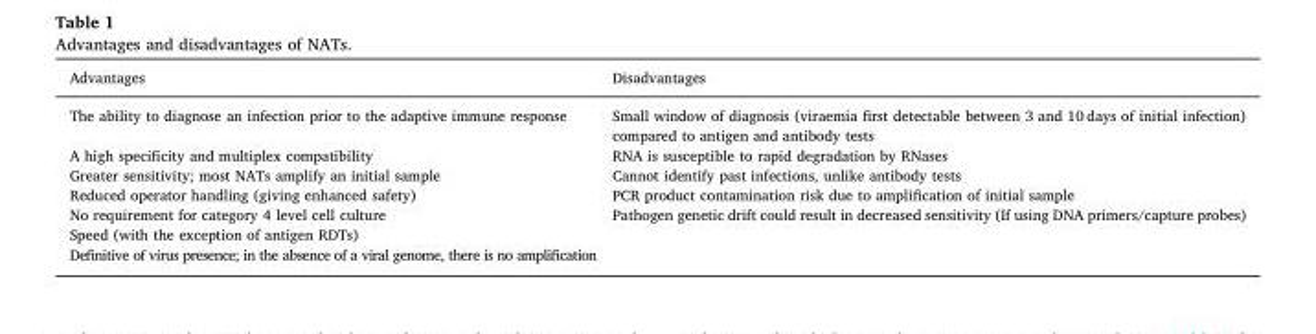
<table><thead><tr><td>Advantages</td><td>Disadvantages</td></tr></thead><tbody><tr><td>The ability to diagnose an infection prior to the adaptive immune response</td><td>Small window of diagnosis (viraemia first detectable between 3 and 10 days of initial infection) compared to antigen and antibody tests</td></tr><tr><td>A high specificity and multiplex compatibility</td><td>RNA is susceptible to rapid degradation by RNases</td></tr><tr><td>Greater sensitivity; most NATs amplify an initial sample</td><td>Cannot identify past infections, unlike antibody tests</td></tr><tr><td>Reduced operator handling (giving enhanced safety)</td><td>PCR product contamination risk due to amplification of initial sample</td></tr><tr><td>No requirement for category 4 level cell culture</td><td rowspan="2">Pathogen genetic drift could result in decreased sensitivity (If using DNA primers/capture probes)</td></tr><tr><td>Speed (with the exception of antigen RDTs)</td></tr><tr><td>Definitive of virus presence; in the absence of a viral genome, there is no amplification</td><td></td></tr></tbody></table>